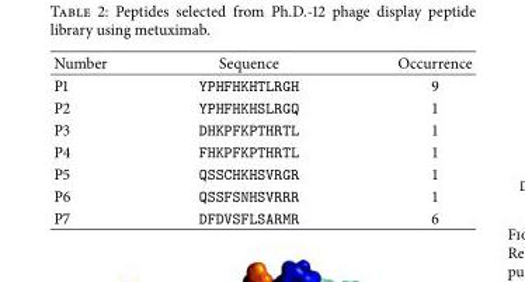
<table><thead><tr><td>Number</td><td>Sequence</td><td>Occurrence</td></tr></thead><tbody><tr><td>P1</td><td>YPHFHKHTLRGH</td><td>9</td></tr><tr><td>P2</td><td>YPHFHKHSLRGQ</td><td>1</td></tr><tr><td>P3</td><td>DHKPFKPTHRTL</td><td>1</td></tr><tr><td>P4</td><td>FHKPFKPTHRTL</td><td>1</td></tr><tr><td>P5</td><td>QSSCHKHSVRGR</td><td>1</td></tr><tr><td>P6</td><td>QSSFSNHSVRRR</td><td>1</td></tr><tr><td>P7</td><td>DFDVSFLSARMR</td><td>6</td></tr></tbody></table>